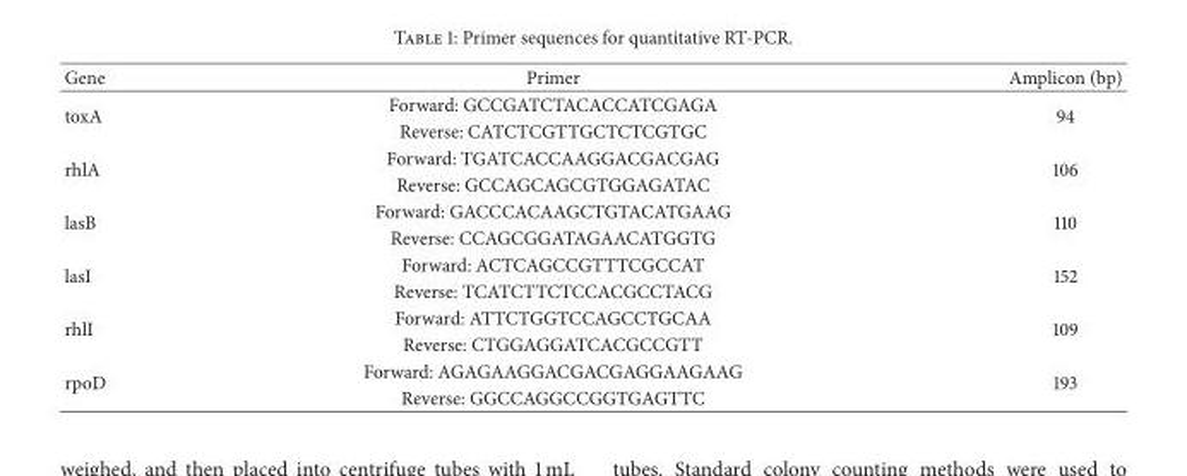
<table><thead><tr><td>Gene</td><td>Primer</td><td>Amplicon (bp)</td></tr></thead><tbody><tr><td rowspan="2">toxA</td><td>Forward: GCCGATCTACACCATCGAGA</td><td rowspan="2">94</td></tr><tr><td>Reverse: CATCTCGTTGCTCTCGTGC</td></tr><tr><td rowspan="2">rhlA</td><td>Forward: TGATCACCAAGGACGACGAG</td><td rowspan="2">106</td></tr><tr><td>Reverse: GCCAGCAGCGTGGAGATAC</td></tr><tr><td rowspan="2">lasB</td><td>Forward: GACCCACAAGCTGTACATGAAG</td><td rowspan="2">110</td></tr><tr><td>Reverse: CCAGCGGATAGAACATGGTG</td></tr><tr><td rowspan="2">lasI</td><td>Forward: ACTCAGCCGTTTCGCCAT</td><td rowspan="2">152</td></tr><tr><td>Reverse: TCATCTTCTCCACGCCTACG</td></tr><tr><td rowspan="2">rhlI</td><td>Forward: ATTCTGGTCCAGCCTGCAA</td><td rowspan="2">109</td></tr><tr><td>Reverse: CTGGAGGATCACGCCGTT</td></tr><tr><td rowspan="2">rpoD</td><td>Forward: AGAGAAGGACGACGAGGAAGAAG</td><td rowspan="2">193</td></tr><tr><td>Reverse: GGCCAGGCCGGTGAGTTC</td></tr></tbody></table>